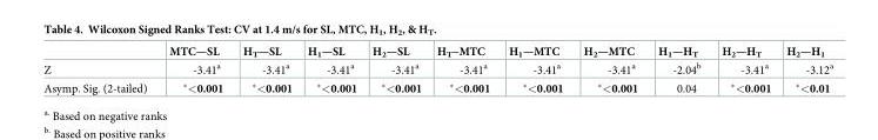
<table><thead><tr><td></td><td>MTC—SL</td><td>H<sub>T</sub>—SL</td><td>H<sub>1</sub>—SL</td><td>H<sub>2</sub>—SL</td><td>H<sub>T</sub>−MTC</td><td>H<sub>1</sub>—MTC</td><td>H<sub>2</sub>—MTC</td><td>H<sub>1</sub>—H<sub>T</sub></td><td>H<sub>2</sub>—H<sub>T</sub></td><td>H<sub>2</sub>—H<sub>1</sub></td></tr></thead><tbody><tr><td>Z</td><td>-3.41<sup>a</sup></td><td>-3.41<sup>a</sup></td><td>-3.41<sup>a</sup></td><td>-3.41<sup>a</sup></td><td>-3.41<sup>a</sup></td><td>-3.41<sup>a</sup></td><td>-3.41<sup>a</sup></td><td>-2.04<sup>b</sup></td><td>-3.41<sup>a</sup></td><td>-3.12<sup>a</sup></td></tr><tr><td>Asymp. Sig. (2-tailed)</td><td>*&lt;0.001</td><td>*&lt;0.001</td><td>*&lt;0.001</td><td>*&lt;0.001</td><td>*&lt;0.001</td><td>*&lt;0.001</td><td>*&lt;0.001</td><td>0.04</td><td>*&lt;0.001</td><td>*&lt;0.01</td></tr></tbody></table>